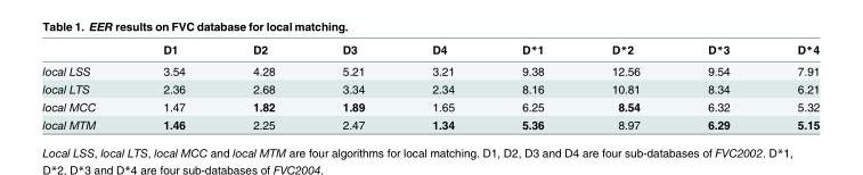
<table><thead><tr><td></td><td>D1</td><td>D2</td><td>D3</td><td>D4</td><td>D*1</td><td>D*2</td><td>D*3</td><td>D*4</td></tr></thead><tbody><tr><td>local LSS</td><td>3.54</td><td>4.28</td><td>5.21</td><td>3.21</td><td>9.38</td><td>12.56</td><td>9.54</td><td>7.91</td></tr><tr><td>local LTS</td><td>2.36</td><td>2.68</td><td>3.34</td><td>2.34</td><td>8.16</td><td>10.81</td><td>8.34</td><td>6.21</td></tr><tr><td>local MCC</td><td>1.47</td><td>1.82</td><td>1.89</td><td>1.65</td><td>6.25</td><td>8.54</td><td>6.32</td><td>5.32</td></tr><tr><td>local MTM</td><td>1.46</td><td>2.25</td><td>2.47</td><td>1.34</td><td>5.36</td><td>8.97</td><td>6.29</td><td>5.15</td></tr></tbody></table>